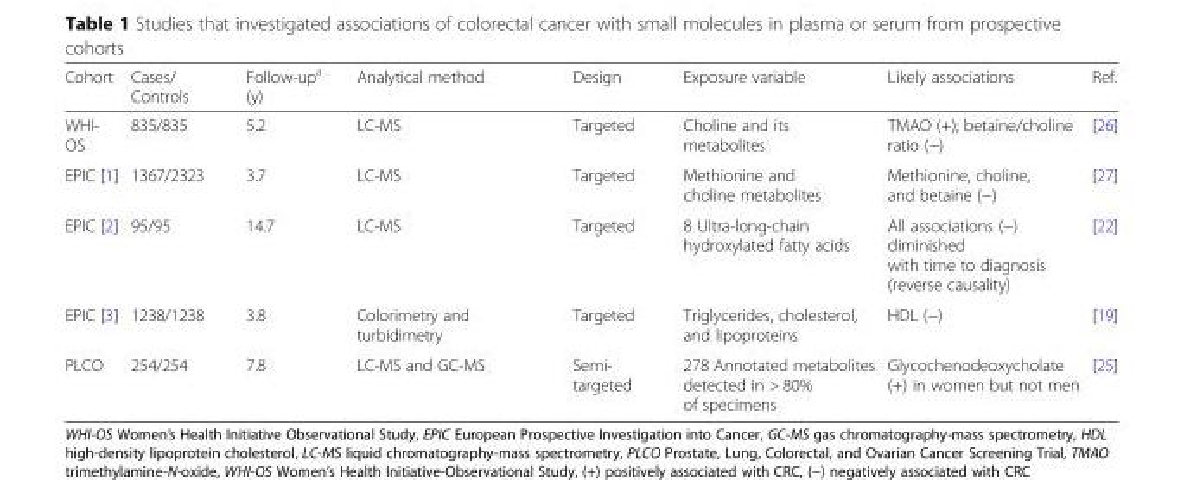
<table><thead><tr><td>Cohort</td><td>Cases/ Controls</td><td>Follow-up<sup>a</sup> (y)</td><td>Analytical method</td><td>Design</td><td>Exposure variable</td><td>Likely associations</td><td>Ref.</td></tr></thead><tbody><tr><td>WHI- OS</td><td>835/835</td><td>5.2</td><td>LC-MS</td><td>Targeted</td><td>Choline and its metabolites</td><td>TMAO (+); betaine/choline ratio (−)</td><td>[26]</td></tr><tr><td>EPIC [1]</td><td>1367/2323</td><td>3.7</td><td>LC-MS</td><td>Targeted</td><td>Methionine and choline metabolites</td><td>Methionine, choline, and betaine (−)</td><td>[27]</td></tr><tr><td>EPIC [2]</td><td>95/95</td><td>14.7</td><td>LC-MS</td><td>Targeted</td><td>8 Ultra-long-chain hydroxylated fatty acids</td><td>All associations (−) diminished with time to diagnosis (reverse causality)</td><td>[22]</td></tr><tr><td>EPIC [3]</td><td>1238/1238</td><td>3.8</td><td>Colorimetry and turbidimetry</td><td>Targeted</td><td>Triglycerides, cholesterol, and lipoproteins</td><td>HDL (−)</td><td>[19]</td></tr><tr><td>PLCO</td><td>254/254</td><td>7.8</td><td>LC-MS and GC-MS</td><td>Semi- targeted</td><td>278 Annotated metabolites detected in &gt; 80% of specimens</td><td>Glycochenodeoxycholate (+) in women but not men</td><td>[25]</td></tr></tbody></table>